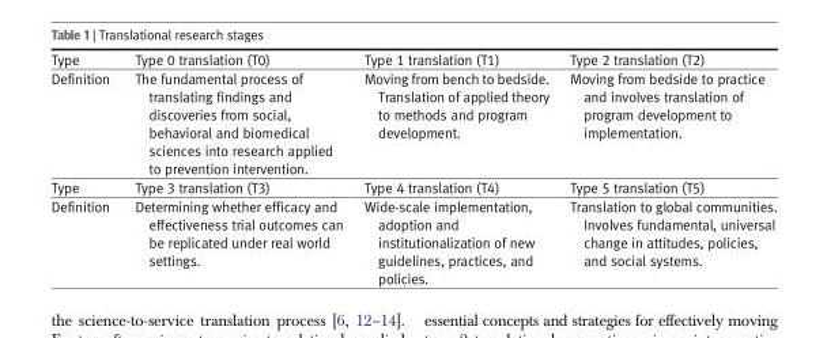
<table><tbody><tr><td>Type</td><td>Type 0 translation (T0)</td><td>Type 1 translation (T1)</td><td>Type 2 translation (T2)</td></tr><tr><td>Definition</td><td>The fundamental process of translating findings and discoveries from social, behavioral and biomedical sciences into research applied to prevention intervention.</td><td>Moving from bench to bedside. Translation of applied theory to methods and program development.</td><td>Moving from bedside to practice and involves translation of program development to implementation.</td></tr><tr><td>Type</td><td>Type 3 translation (T3)</td><td>Type 4 translation (T4)</td><td>Type 5 translation (T5)</td></tr><tr><td>Definition</td><td>Determining whether efficacy and effectiveness trial outcomes can be replicated under real world settings.</td><td>Wide-scale implementation, adoption and institutionalization of new guidelines, practices, and policies.</td><td>Translation to global communities. Involves fundamental, universal change in attitudes, policies, and social systems.</td></tr></tbody></table>